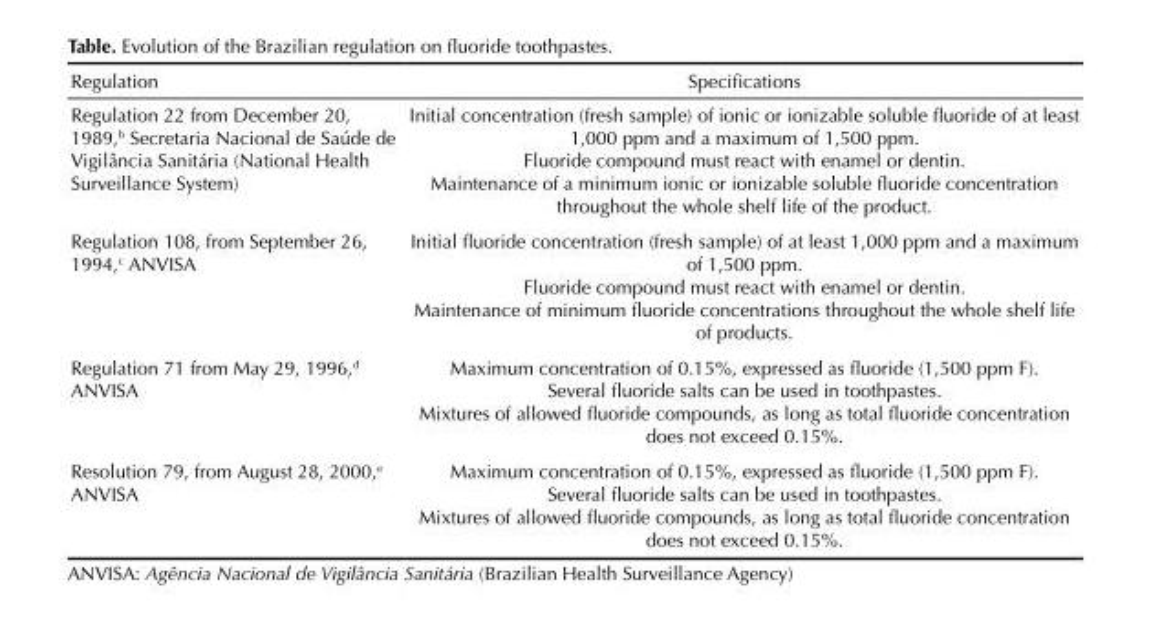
<table><thead><tr><td>Regulation</td><td>Specifications</td></tr></thead><tbody><tr><td>Regulation 22 from December 20, 1989,<sup>b</sup> Secretaria Nacional de Saúde de Vigilância Sanitária (National Health Surveillance System)</td><td>Initial concentration (fresh sample) of ionic or ionizable soluble fluoride of at least 1,000 ppm and a maximum of 1,500 ppm. Fluoride compound must react with enamel or dentin. Maintenance of a minimum ionic or ionizable soluble fluoride concentration throughout the whole shelf life of the product.</td></tr><tr><td>Regulation 108, from September 26, 1994,<sup>c</sup> ANVISA</td><td>Initial fluoride concentration (fresh sample) of at least 1,000 ppm and a maximum of 1,500 ppm. Fluoride compound must react with enamel or dentin. Maintenance of minimum fluoride concentrations throughout the whole shelf life of products.</td></tr><tr><td>Regulation 71 from May 29, 1996,<sup>d</sup> ANVISA</td><td>Maximum concentration of 0.15%, expressed as fluoride (1,500 ppm F). Several fluoride salts can be used in toothpastes. Mixtures of allowed fluoride compounds, as long as total fluoride concentration does not exceed 0.15%.</td></tr><tr><td>Resolution 79, from August 28, 2000,<sup>e</sup> ANVISA</td><td>Maximum concentration of 0.15%, expressed as fluoride (1,500 ppm F). Several fluoride salts can be used in toothpastes. Mixtures of allowed fluoride compounds, as long as total fluoride concentration does not exceed 0.15%.</td></tr></tbody></table>